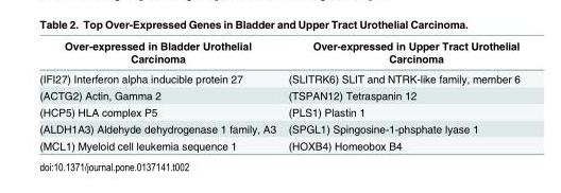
<table><thead><tr><td>Over-expressed in Bladder Urothelial Carcinoma</td><td>Over-expressed in Upper Tract Urothelial Carcinoma</td></tr></thead><tbody><tr><td>(IFI27) Interferon alpha inducible protein 27</td><td>(SLITRK6) SLIT and NTRK-like family, member 6</td></tr><tr><td>(ACTG2) Actin, Gamma 2</td><td>(TSPAN12) Tetraspanin 12</td></tr><tr><td>(HCP5) HLA complex P5</td><td>(PLS1) Plastin 1</td></tr><tr><td>(ALDH1A3) Aldehyde dehydrogenase 1 family, A3</td><td>(SPGL1) Spingosine-1-phsphate lyase 1</td></tr><tr><td>(MCL1) Myeloid cell leukemia sequence 1</td><td>(HOXB4) Homeobox B4</td></tr></tbody></table>